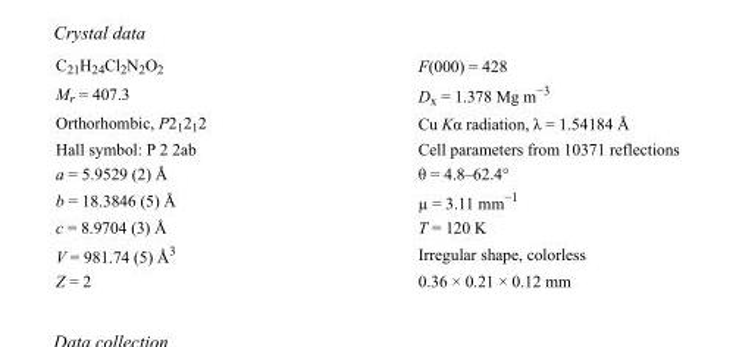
<table><tbody><tr><td>C<sub>21</sub>H<sub>24</sub>Cl<sub>2</sub>N<sub>2</sub>O<sub>2</sub></td><td>F(000) = 428</td></tr><tr><td>M<sub>r</sub> = 407.3</td><td>D<sub>x</sub> = 1.378 Mg m<sup>−3</sup></td></tr><tr><td>Orthorhombic, P2<sub>1</sub>2<sub>1</sub>2</td><td>Cu Kα radiation, λ = 1.54184 Å</td></tr><tr><td>Hall symbol: P 2 2ab</td><td>Cell parameters from 10371 reflections</td></tr><tr><td>a = 5.9529 (2) Å</td><td>θ = 4.8–62.4°</td></tr><tr><td>b = 18.3846 (5) Å</td><td>µ = 3.11 mm<sup>−1</sup></td></tr><tr><td>c = 8.9704 (3) Å</td><td>T = 120 K</td></tr><tr><td>V = 981.74 (5) Å<sup>3</sup></td><td>Irregular shape, colorless</td></tr><tr><td>Z = 2</td><td>0.36 × 0.21 × 0.12 mm</td></tr></tbody></table>